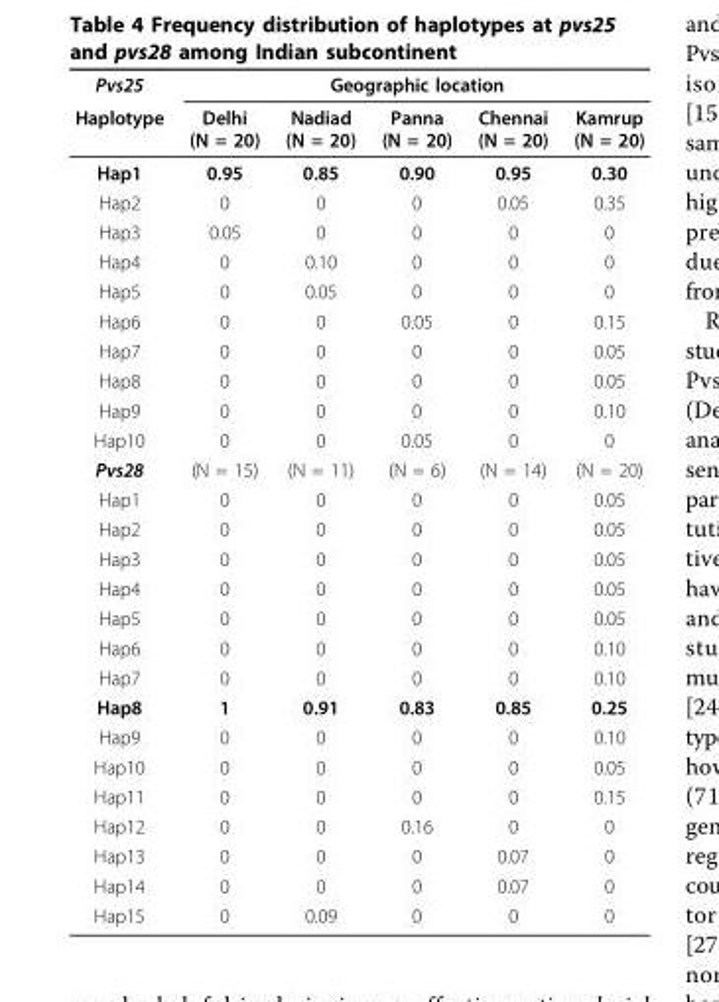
<table><thead><tr><td rowspan="2">Pvs25 Haplotype</td><td colspan="5">Geographic location</td></tr><tr><td>Delhi (N = 20)</td><td>Nadiad (N = 20)</td><td>Panna (N = 20)</td><td>Chennai (N = 20)</td><td>Kamrup (N = 20)</td></tr></thead><tbody><tr><td>Hap1</td><td>0.95</td><td>0.85</td><td>0.90</td><td>0.95</td><td>0.30</td></tr><tr><td>Hap2</td><td>0</td><td>0</td><td>0</td><td>0.05</td><td>0.35</td></tr><tr><td>Hap3</td><td>0.05</td><td>0</td><td>0</td><td>0</td><td>0</td></tr><tr><td>Hap4</td><td>0</td><td>0.10</td><td>0</td><td>0</td><td>0</td></tr><tr><td>Hap5</td><td>0</td><td>0.05</td><td>0</td><td>0</td><td>0</td></tr><tr><td>Hap6</td><td>0</td><td>0</td><td>0.05</td><td>0</td><td>0.15</td></tr><tr><td>Hap7</td><td>0</td><td>0</td><td>0</td><td>0</td><td>0.05</td></tr><tr><td>Hap8</td><td>0</td><td>0</td><td>0</td><td>0</td><td>0.05</td></tr><tr><td>Hap9</td><td>0</td><td>0</td><td>0</td><td>0</td><td>0.10</td></tr><tr><td>Hap10</td><td>0</td><td>0</td><td>0.05</td><td>0</td><td>0</td></tr><tr><td>Pvs28</td><td>(N = 15)</td><td>(N = 11)</td><td>(N = 6)</td><td>(N = 14)</td><td>(N = 20)</td></tr><tr><td>Hap1</td><td>0</td><td>0</td><td>0</td><td>0</td><td>0.05</td></tr><tr><td>Hap2</td><td>0</td><td>0</td><td>0</td><td>0</td><td>0.05</td></tr><tr><td>Hap3</td><td>0</td><td>0</td><td>0</td><td>0</td><td>0.05</td></tr><tr><td>Hap4</td><td>0</td><td>0</td><td>0</td><td>0</td><td>0.05</td></tr><tr><td>Hap5</td><td>0</td><td>0</td><td>0</td><td>0</td><td>0.05</td></tr><tr><td>Hap6</td><td>0</td><td>0</td><td>0</td><td>0</td><td>0.10</td></tr><tr><td>Hap7</td><td>0</td><td>0</td><td>0</td><td>0</td><td>0.10</td></tr><tr><td>Hap8</td><td>1</td><td>0.91</td><td>0.83</td><td>0.85</td><td>0.25</td></tr><tr><td>Hap9</td><td>0</td><td>0</td><td>0</td><td>0</td><td>0.10</td></tr><tr><td>Hap10</td><td>0</td><td>0</td><td>0</td><td>0</td><td>0.05</td></tr><tr><td>Hap11</td><td>0</td><td>0</td><td>0</td><td>0</td><td>0.15</td></tr><tr><td>Hap12</td><td>0</td><td>0</td><td>0.16</td><td>0</td><td>0</td></tr><tr><td>Hap13</td><td>0</td><td>0</td><td>0</td><td>0.07</td><td>0</td></tr><tr><td>Hap14</td><td>0</td><td>0</td><td>0</td><td>0.07</td><td>0</td></tr><tr><td>Hap15</td><td>0</td><td>0.09</td><td>0</td><td>0</td><td>0</td></tr></tbody></table>